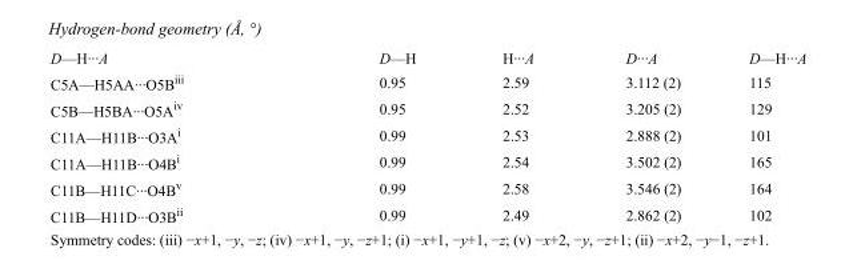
<table><tbody><tr><td>D—H···A</td><td>D—H</td><td>H···A</td><td>D···A</td><td>D—H···A</td></tr><tr><td>C5A—H5AA···O5B<sup>iii</sup></td><td>0.95</td><td>2.59</td><td>3.112 (2)</td><td>115</td></tr><tr><td>C5B—H5BA···O5A<sup>iv</sup></td><td>0.95</td><td>2.52</td><td>3.205 (2)</td><td>129</td></tr><tr><td>C11A—H11B···O3A<sup>i</sup></td><td>0.99</td><td>2.53</td><td>2.888 (2)</td><td>101</td></tr><tr><td>C11A—H11B···O4B<sup>i</sup></td><td>0.99</td><td>2.54</td><td>3.502 (2)</td><td>165</td></tr><tr><td>C11B—H11C···O4B<sup>v</sup></td><td>0.99</td><td>2.58</td><td>3.546 (2)</td><td>164</td></tr><tr><td>C11B—H11D···O3B<sup>ii</sup></td><td>0.99</td><td>2.49</td><td>2.862 (2)</td><td>102</td></tr></tbody></table>